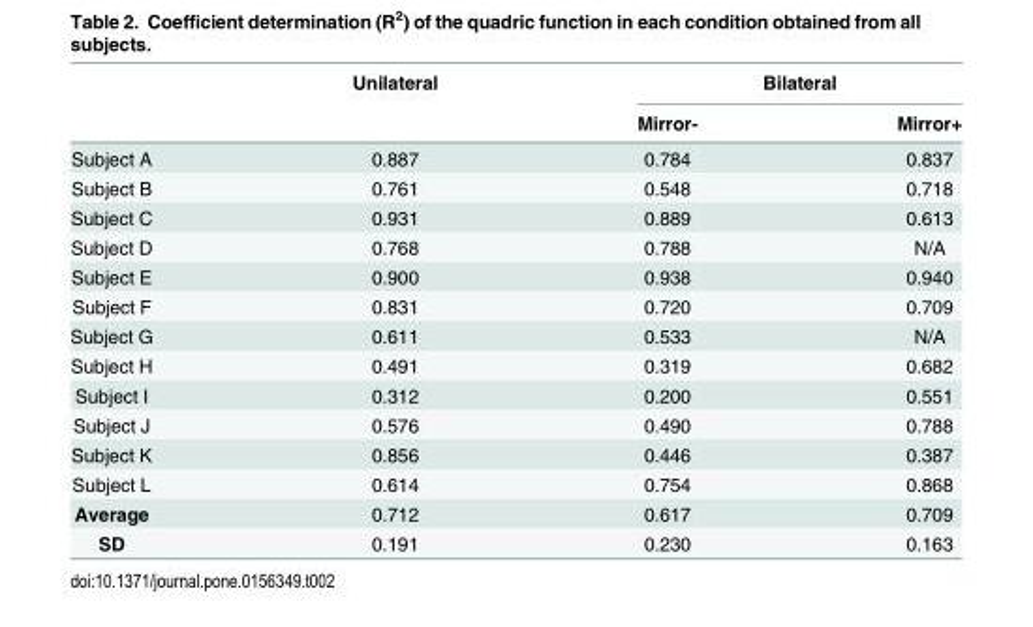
<table><thead><tr><td rowspan="2"></td><td rowspan="2">Unilateral</td><td colspan="2">Bilateral</td></tr><tr><td>Mirror-</td><td>Mirror+</td></tr></thead><tbody><tr><td>Subject A</td><td>0.887</td><td>0.784</td><td>0.837</td></tr><tr><td>Subject B</td><td>0.761</td><td>0.548</td><td>0.718</td></tr><tr><td>Subject C</td><td>0.931</td><td>0.889</td><td>0.613</td></tr><tr><td>Subject D</td><td>0.768</td><td>0.788</td><td>N/A</td></tr><tr><td>Subject E</td><td>0.900</td><td>0.938</td><td>0.940</td></tr><tr><td>Subject F</td><td>0.831</td><td>0.720</td><td>0.709</td></tr><tr><td>Subject G</td><td>0.611</td><td>0.533</td><td>N/A</td></tr><tr><td>Subject H</td><td>0.491</td><td>0.319</td><td>0.682</td></tr><tr><td>Subject I</td><td>0.312</td><td>0.200</td><td>0.551</td></tr><tr><td>Subject J</td><td>0.576</td><td>0.490</td><td>0.788</td></tr><tr><td>Subject K</td><td>0.856</td><td>0.446</td><td>0.387</td></tr><tr><td>Subject L</td><td>0.614</td><td>0.754</td><td>0.868</td></tr><tr><td>Average</td><td>0.712</td><td>0.617</td><td>0.709</td></tr><tr><td>SD</td><td>0.191</td><td>0.230</td><td>0.163</td></tr></tbody></table>